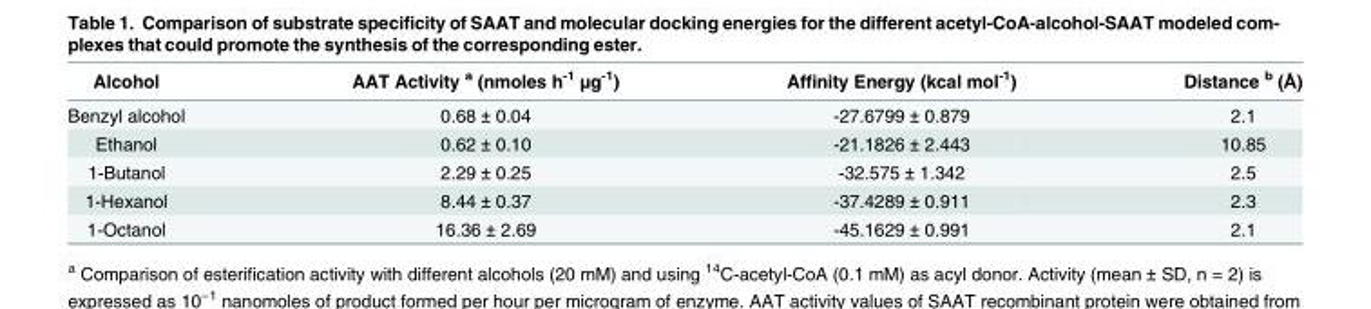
<table><thead><tr><td>Alcohol</td><td>AAT Activity <sup>a</sup> (nmoles h<sup>-1</sup> µg<sup>-1</sup>)</td><td>Affinity Energy (kcal mol<sup>-1</sup>)</td><td>Distance <sup>b</sup> (Å)</td></tr></thead><tbody><tr><td>Benzyl alcohol</td><td>0.68 ± 0.04</td><td>-27.6799 ± 0.879</td><td>2.1</td></tr><tr><td>Ethanol</td><td>0.62 ± 0.10</td><td>-21.1826 ± 2.443</td><td>10.85</td></tr><tr><td>1-Butanol</td><td>2.29 ± 0.25</td><td>-32.575 ± 1.342</td><td>2.5</td></tr><tr><td>1-Hexanol</td><td>8.44 ± 0.37</td><td>-37.4289 ± 0.911</td><td>2.3</td></tr><tr><td>1-Octanol</td><td>16.36 ± 2.69</td><td>-45.1629 ± 0.991</td><td>2.1</td></tr></tbody></table>